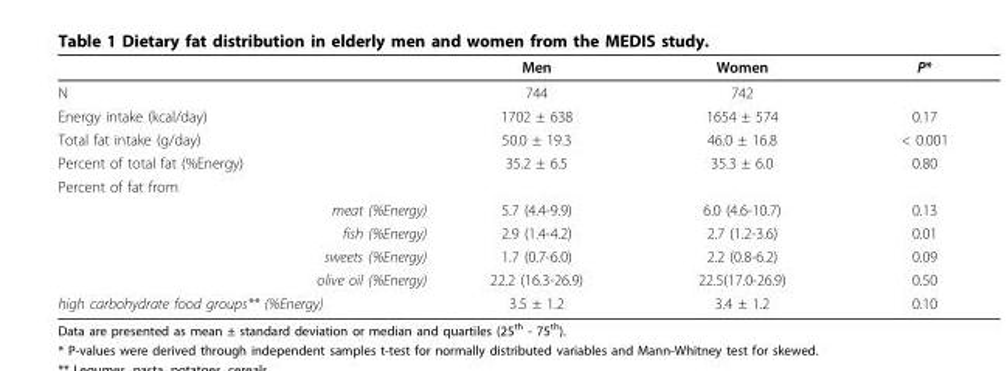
<table><thead><tr><td></td><td>Men</td><td>Women</td><td>P*</td></tr></thead><tbody><tr><td>N</td><td>744</td><td>742</td><td></td></tr><tr><td>Energy intake (kcal/day)</td><td>1702 ± 638</td><td>1654 ± 574</td><td>0.17</td></tr><tr><td>Total fat intake (g/day)</td><td>50.0 ± 19.3</td><td>46.0 ± 16.8</td><td>&lt; 0.001</td></tr><tr><td>Percent of total fat (%Energy)</td><td>35.2 ± 6.5</td><td>35.3 ± 6.0</td><td>0.80</td></tr><tr><td colspan="4">Percent of fat from</td></tr><tr><td>meat (%Energy)</td><td>5.7 (4.4-9.9)</td><td>6.0 (4.6-10.7)</td><td>0.13</td></tr><tr><td>fish (%Energy)</td><td>2.9 (1.4-4.2)</td><td>2.7 (1.2-3.6)</td><td>0.01</td></tr><tr><td>sweets (%Energy)</td><td>1.7 (0.7-6.0)</td><td>2.2 (0.8-6.2)</td><td>0.09</td></tr><tr><td>olive oil (%Energy)</td><td>22.2 (16.3-26.9)</td><td>22.5(17.0-26.9)</td><td>0.50</td></tr><tr><td>high carbohydrate food groups** (%Energy)</td><td>3.5 ± 1.2</td><td>3.4 ± 1.2</td><td>0.10</td></tr></tbody></table>